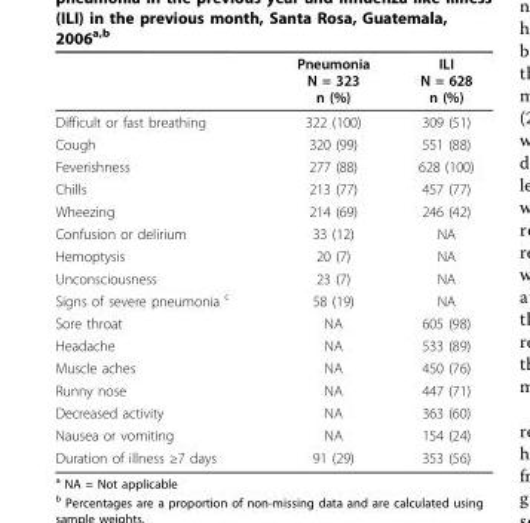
<table><thead><tr><td></td><td>Pneumonia N = 323 n (%)</td><td>ILI N = 628 n (%)</td></tr></thead><tbody><tr><td>Difficult or fast breathing</td><td>322 (100)</td><td>309 (51)</td></tr><tr><td>Cough</td><td>320 (99)</td><td>551 (88)</td></tr><tr><td>Feverishness</td><td>277 (88)</td><td>628 (100)</td></tr><tr><td>Chills</td><td>213 (77)</td><td>457 (77)</td></tr><tr><td>Wheezing</td><td>214 (69)</td><td>246 (42)</td></tr><tr><td>Confusion or delirium</td><td>33 (12)</td><td>NA</td></tr><tr><td>Hemoptysis</td><td>20 (7)</td><td>NA</td></tr><tr><td>Unconsciousness</td><td>23 (7)</td><td>NA</td></tr><tr><td>Signs of severe pneumonia <sup>c</sup></td><td>58 (19)</td><td>NA</td></tr><tr><td>Sore throat</td><td>NA</td><td>605 (98)</td></tr><tr><td>Headache</td><td>NA</td><td>533 (89)</td></tr><tr><td>Muscle aches</td><td>NA</td><td>450 (76)</td></tr><tr><td>Runny nose</td><td>NA</td><td>447 (71)</td></tr><tr><td>Decreased activity</td><td>NA</td><td>363 (60)</td></tr><tr><td>Nausea or vomiting</td><td>NA</td><td>154 (24)</td></tr><tr><td>Duration of illness ≥7 days</td><td>91 (29)</td><td>353 (56)</td></tr></tbody></table>